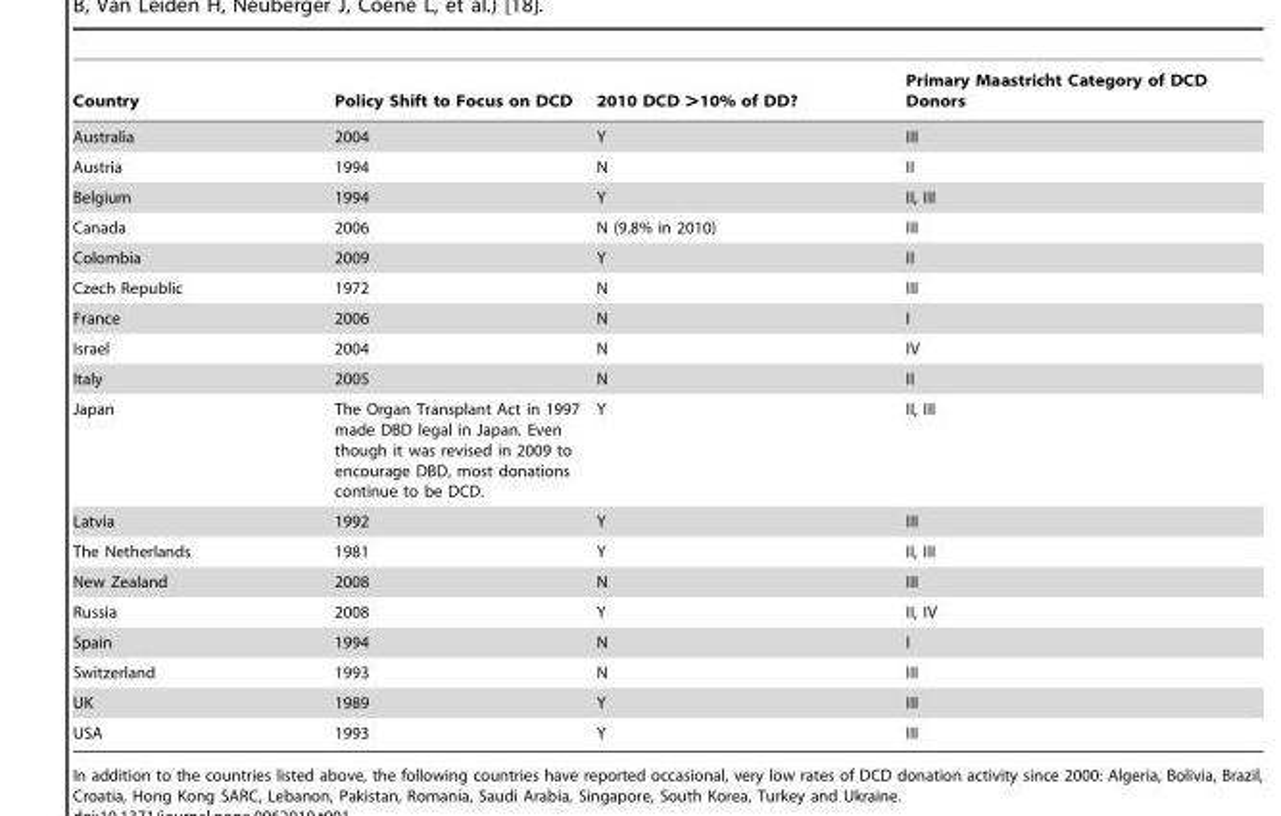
<table><thead><tr><td>Country</td><td>Policy Shift to Focus on DCD</td><td>2010 DCD &gt;10% of DD?</td><td>Primary Maastricht Category of DCD Donors</td></tr></thead><tbody><tr><td>Australia</td><td>2004</td><td>Y</td><td>III</td></tr><tr><td>Austria</td><td>1994</td><td>N</td><td>II</td></tr><tr><td>Belgium</td><td>1994</td><td>Y</td><td>II, III</td></tr><tr><td>Canada</td><td>2006</td><td>N (9.8% in 2010)</td><td>III</td></tr><tr><td>Colombia</td><td>2009</td><td>Y</td><td>II</td></tr><tr><td>Czech Republic</td><td>1972</td><td>N</td><td>III</td></tr><tr><td>France</td><td>2006</td><td>N</td><td>I</td></tr><tr><td>Israel</td><td>2004</td><td>N</td><td>IV</td></tr><tr><td>Italy</td><td>2005</td><td>N</td><td>II</td></tr><tr><td>Japan</td><td>The Organ Transplant Act in 1997 made DBD legal in Japan. Even though it was revised in 2009 to encourage DBD, most donations continue to be DCD.</td><td>Y</td><td>II, III</td></tr><tr><td>Latvia</td><td>1992</td><td>Y</td><td>III</td></tr><tr><td>The Netherlands</td><td>1981</td><td>Y</td><td>II, III</td></tr><tr><td>New Zealand</td><td>2008</td><td>N</td><td>III</td></tr><tr><td>Russia</td><td>2008</td><td>Y</td><td>II, IV</td></tr><tr><td>Spain</td><td>1994</td><td>N</td><td>I</td></tr><tr><td>Switzerland</td><td>1993</td><td>N</td><td>III</td></tr><tr><td>UK</td><td>1989</td><td>Y</td><td>III</td></tr><tr><td>USA</td><td>1993</td><td>Y</td><td>III</td></tr></tbody></table>